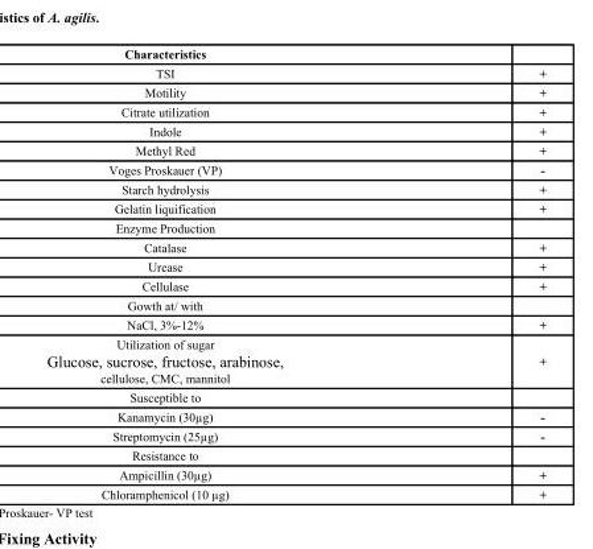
<table><thead><tr><td>Characteristics</td><td></td></tr></thead><tbody><tr><td>TSI</td><td>+</td></tr><tr><td>Motility</td><td>+</td></tr><tr><td>Citrate utilization</td><td>+</td></tr><tr><td>Indole</td><td>+</td></tr><tr><td>Methyl Red</td><td>+</td></tr><tr><td>Voges Proskauer (VP)</td><td>-</td></tr><tr><td>Starch hydrolysis</td><td>+</td></tr><tr><td>Gelatin liquification</td><td>+</td></tr><tr><td colspan="2">Enzyme Production</td></tr><tr><td>Catalase</td><td>+</td></tr><tr><td>Urease</td><td>+</td></tr><tr><td>Cellulase</td><td>+</td></tr><tr><td colspan="2">Gowth at/ with</td></tr><tr><td>NaCl, 3%-12%</td><td>+</td></tr><tr><td>Utilization of sugar Glucose, sucrose, fructose, arabinose, cellulose, CMC, mannitol</td><td>+</td></tr><tr><td colspan="2">Susceptible to</td></tr><tr><td>Kanamycin (30µg)</td><td>-</td></tr><tr><td>Streptomycin (25µg)</td><td>-</td></tr><tr><td colspan="2">Resistance to</td></tr><tr><td>Ampicillin (30µg)</td><td>+</td></tr><tr><td>Chloramphenicol (10 µg)</td><td>+</td></tr></tbody></table>